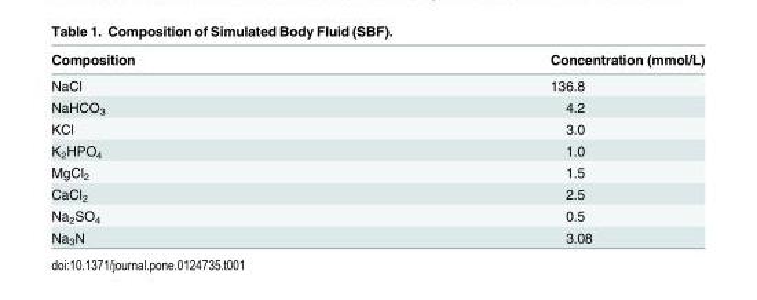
<table><thead><tr><td>Composition</td><td>Concentration (mmol/L)</td></tr></thead><tbody><tr><td>NaCl</td><td>136.8</td></tr><tr><td>NaHCO<sub>3</sub></td><td>4.2</td></tr><tr><td>KCl</td><td>3.0</td></tr><tr><td>K<sub>2</sub>HPO<sub>4</sub></td><td>1.0</td></tr><tr><td>MgCl<sub>2</sub></td><td>1.5</td></tr><tr><td>CaCl<sub>2</sub></td><td>2.5</td></tr><tr><td>Na<sub>2</sub>SO<sub>4</sub></td><td>0.5</td></tr><tr><td>Na<sub>3</sub>N</td><td>3.08</td></tr></tbody></table>